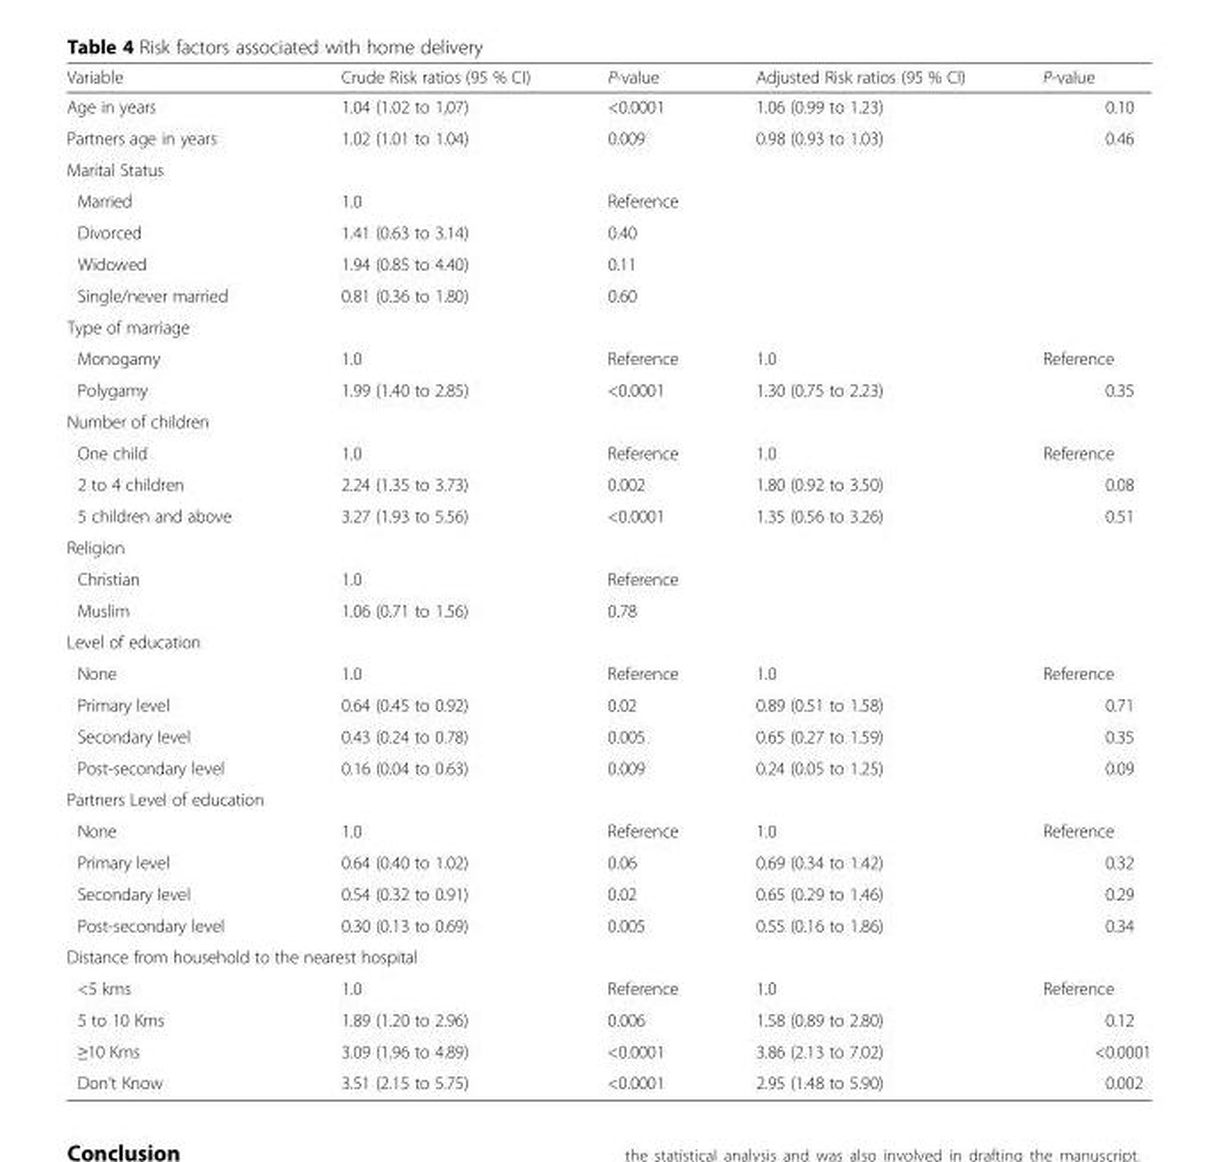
<table><thead><tr><td>Variable</td><td>Crude Risk ratios (95 % CI)</td><td>P-value</td><td>Adjusted Risk ratios (95 % CI)</td><td>P-value</td></tr></thead><tbody><tr><td>Age in years</td><td>1.04 (1.02 to 1,07)</td><td>&lt;0.0001</td><td>1.06 (0.99 to 1.23)</td><td>0.10</td></tr><tr><td>Partners age in years</td><td>1.02 (1.01 to 1.04)</td><td>0.009</td><td>0.98 (0.93 to 1.03)</td><td>0.46</td></tr><tr><td colspan="5">Marital Status</td></tr><tr><td>Married</td><td>1.0</td><td>Reference</td><td></td><td></td></tr><tr><td>Divorced</td><td>1.41 (0.63 to 3.14)</td><td>0.40</td><td></td><td></td></tr><tr><td>Widowed</td><td>1.94 (0.85 to 4.40)</td><td>0.11</td><td></td><td></td></tr><tr><td>Single/never married</td><td>0.81 (0.36 to 1.80)</td><td>0.60</td><td></td><td></td></tr><tr><td colspan="5">Type of marriage</td></tr><tr><td>Monogamy</td><td>1.0</td><td>Reference</td><td>1.0</td><td>Reference</td></tr><tr><td>Polygamy</td><td>1.99 (1.40 to 2.85)</td><td>&lt;0.0001</td><td>1.30 (0.75 to 2.23)</td><td>0.35</td></tr><tr><td colspan="5">Number of children</td></tr><tr><td>One child</td><td>1.0</td><td>Reference</td><td>1.0</td><td>Reference</td></tr><tr><td>2 to 4 children</td><td>2.24 (1.35 to 3.73)</td><td>0.002</td><td>1.80 (0.92 to 3.50)</td><td>0.08</td></tr><tr><td>5 children and above</td><td>3.27 (1.93 to 5.56)</td><td>&lt;0.0001</td><td>1.35 (0.56 to 3.26)</td><td>0.51</td></tr><tr><td colspan="5">Religion</td></tr><tr><td>Christian</td><td>1.0</td><td>Reference</td><td></td><td></td></tr><tr><td>Muslim</td><td>1.06 (0.71 to 1.56)</td><td>0.78</td><td></td><td></td></tr><tr><td colspan="5">Level of education</td></tr><tr><td>None</td><td>1.0</td><td>Reference</td><td>1.0</td><td>Reference</td></tr><tr><td>Primary level</td><td>0.64 (0.45 to 0.92)</td><td>0.02</td><td>0.89 (0.51 to 1.58)</td><td>0.71</td></tr><tr><td>Secondary level</td><td>0.43 (0.24 to 0.78)</td><td>0.005</td><td>0.65 (0.27 to 1.59)</td><td>0.35</td></tr><tr><td>Post-secondary level</td><td>0.16 (0.04 to 0.63)</td><td>0.009</td><td>0.24 (0.05 to 1.25)</td><td>0.09</td></tr><tr><td colspan="5">Partners Level of education</td></tr><tr><td>None</td><td>1.0</td><td>Reference</td><td>1.0</td><td>Reference</td></tr><tr><td>Primary level</td><td>0.64 (0.40 to 1.02)</td><td>0.06</td><td>0.69 (0.34 to 1.42)</td><td>0.32</td></tr><tr><td>Secondary level</td><td>0.54 (0.32 to 0.91)</td><td>0.02</td><td>0.65 (0.29 to 1.46)</td><td>0.29</td></tr><tr><td>Post-secondary level</td><td>0.30 (0.13 to 0.69)</td><td>0.005</td><td>0.55 (0.16 to 1.86)</td><td>0.34</td></tr><tr><td colspan="5">Distance from household to the nearest hospital</td></tr><tr><td>&lt;5 kms</td><td>1.0</td><td>Reference</td><td>1.0</td><td>Reference</td></tr><tr><td>5 to 10 Kms</td><td>1.89 (1.20 to 2.96)</td><td>0.006</td><td>1.58 (0.89 to 2.80)</td><td>0.12</td></tr><tr><td>≥10 Kms</td><td>3.09 (1.96 to 4.89)</td><td>&lt;0.0001</td><td>3.86 (2.13 to 7.02)</td><td>&lt;0.0001</td></tr><tr><td>Don’t Know</td><td>3.51 (2.15 to 5.75)</td><td>&lt;0.0001</td><td>2.95 (1.48 to 5.90)</td><td>0.002</td></tr></tbody></table>